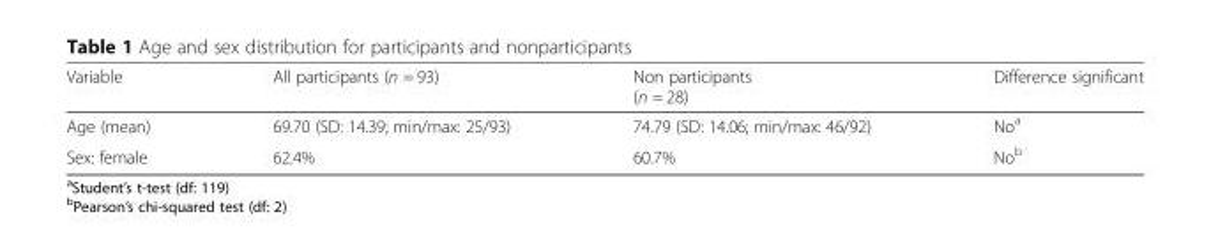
<table><thead><tr><td>Variable</td><td>All participants (n = 93)</td><td>Non participants (n = 28)</td><td>Difference significant</td></tr></thead><tbody><tr><td>Age (mean)</td><td>69.70 (SD: 14.39; min/max: 25/93)</td><td>74.79 (SD: 14.06; min/max: 46/92)</td><td>No<sup>a</sup></td></tr><tr><td>Sex: female</td><td>62.4%</td><td>60.7%</td><td>No<sup>b</sup></td></tr></tbody></table>